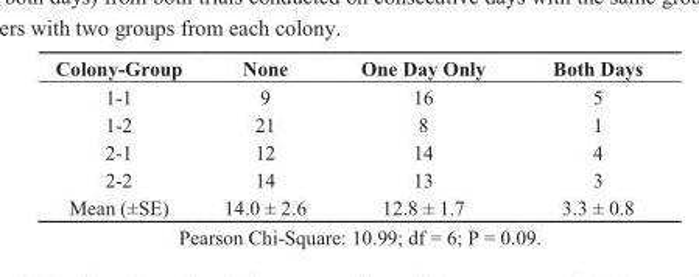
<table><thead><tr><td>Colony-Group</td><td>None</td><td>One Day Only</td><td>Both Days</td></tr></thead><tbody><tr><td>1-1</td><td>9</td><td>16</td><td>5</td></tr><tr><td>1-2</td><td>21</td><td>8</td><td>1</td></tr><tr><td>2-1</td><td>12</td><td>14</td><td>4</td></tr><tr><td>2-2</td><td>14</td><td>13</td><td>3</td></tr><tr><td>Mean (±SE)</td><td>14.0 ± 2.6</td><td>12.8 ± 1.7</td><td>3.3 ± 0.8</td></tr></tbody></table>